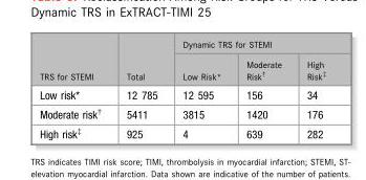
<table><thead><tr><td rowspan="2">TRS for STEMI</td><td rowspan="2">Total</td><td colspan="3">Dynamic TRS for STEMI</td></tr><tr><td>Low Risk*</td><td>Moderate Risk†</td><td>High Risk‡</td></tr></thead><tbody><tr><td>Low risk*</td><td>12 785</td><td>12 595</td><td>156</td><td>34</td></tr><tr><td>Moderate risk†</td><td>5411</td><td>3815</td><td>1420</td><td>176</td></tr><tr><td>High risk‡</td><td>925</td><td>4</td><td>639</td><td>282</td></tr></tbody></table>